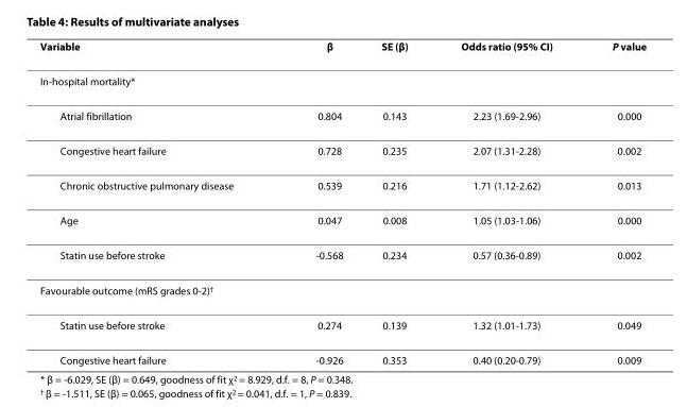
<table><thead><tr><td>Variable</td><td>β</td><td>SE (β)</td><td>Odds ratio (95% CI)</td><td>P value</td></tr></thead><tbody><tr><td colspan="5">In-hospital mortality*</td></tr><tr><td>Atrial fibrillation</td><td>0.804</td><td>0.143</td><td>2.23 (1.69-2.96)</td><td>0.000</td></tr><tr><td>Congestive heart failure</td><td>0.728</td><td>0.235</td><td>2.07 (1.31-2.28)</td><td>0.002</td></tr><tr><td>Chronic obstructive pulmonary disease</td><td>0.539</td><td>0.216</td><td>1.71 (1.12-2.62)</td><td>0.013</td></tr><tr><td>Age</td><td>0.047</td><td>0.008</td><td>1.05 (1.03-1.06)</td><td>0.000</td></tr><tr><td>Statin use before stroke</td><td>-0.568</td><td>0.234</td><td>0.57 (0.36-0.89)</td><td>0.002</td></tr><tr><td colspan="5">Favourable outcome (mRS grades 0-2)<sup>†</sup></td></tr><tr><td>Statin use before stroke</td><td>0.274</td><td>0.139</td><td>1.32 (1.01-1.73)</td><td>0.049</td></tr><tr><td>Congestive heart failure</td><td>-0.926</td><td>0.353</td><td>0.40 (0.20-0.79)</td><td>0.009</td></tr></tbody></table>